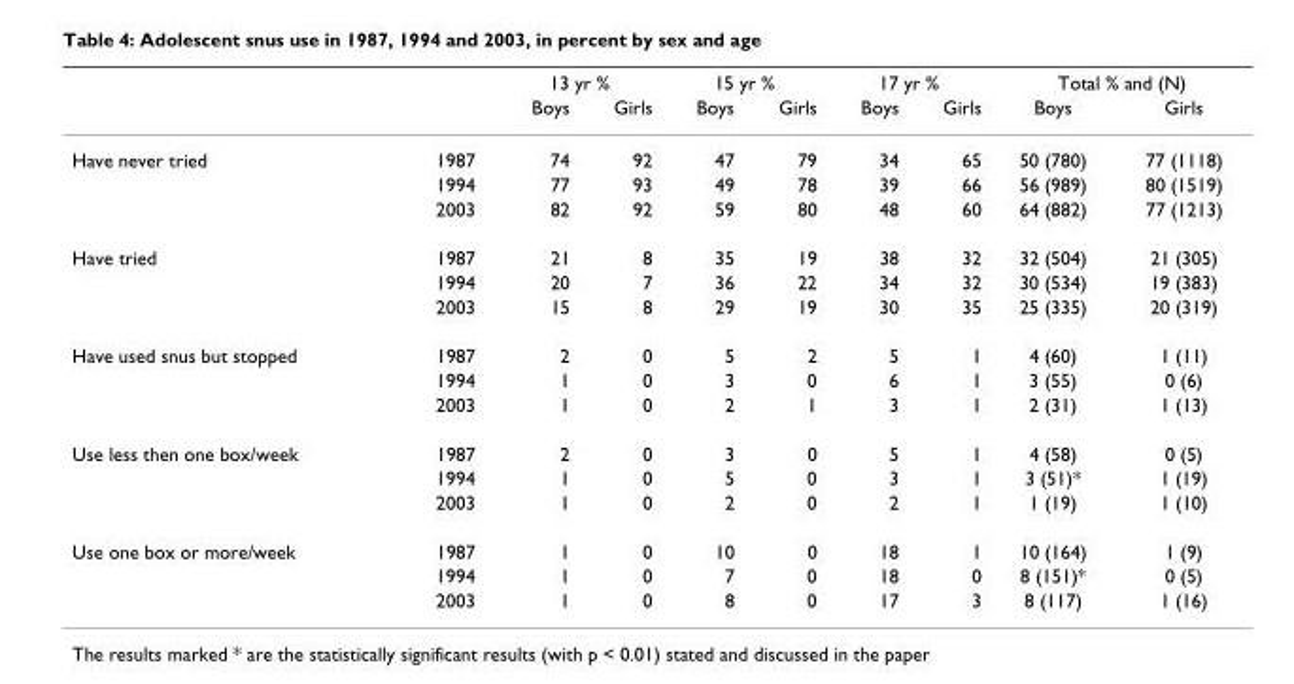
<table><thead><tr><td rowspan="2"></td><td rowspan="2"></td><td colspan="2">13 yr %</td><td colspan="2">15 yr %</td><td colspan="2">17 yr %</td><td colspan="2">Total % and (N)</td></tr><tr><td>Boys</td><td>Girls</td><td>Boys</td><td>Girls</td><td>Boys</td><td>Girls</td><td>Boys</td><td>Girls</td></tr></thead><tbody><tr><td rowspan="3">Have never tried</td><td>1987</td><td>74</td><td>92</td><td>47</td><td>79</td><td>34</td><td>65</td><td>50 (780)</td><td>77 (1118)</td></tr><tr><td>1994</td><td>77</td><td>93</td><td>49</td><td>78</td><td>39</td><td>66</td><td>56 (989)</td><td>80 (1519)</td></tr><tr><td>2003</td><td>82</td><td>92</td><td>59</td><td>80</td><td>48</td><td>60</td><td>64 (882)</td><td>77 (1213)</td></tr><tr><td rowspan="3">Have tried</td><td>1987</td><td>21</td><td>8</td><td>35</td><td>19</td><td>38</td><td>32</td><td>32 (504)</td><td>21 (305)</td></tr><tr><td>1994</td><td>20</td><td>7</td><td>36</td><td>22</td><td>34</td><td>32</td><td>30 (534)</td><td>19 (383)</td></tr><tr><td>2003</td><td>15</td><td>8</td><td>29</td><td>19</td><td>30</td><td>35</td><td>25 (335)</td><td>20 (319)</td></tr><tr><td rowspan="3">Have used snus but stopped</td><td>1987</td><td>2</td><td>0</td><td>5</td><td>2</td><td>5</td><td>1</td><td>4 (60)</td><td>1 (11)</td></tr><tr><td>1994</td><td>1</td><td>0</td><td>3</td><td>0</td><td>6</td><td>1</td><td>3 (55)</td><td>0 (6)</td></tr><tr><td>2003</td><td>1</td><td>0</td><td>2</td><td>1</td><td>3</td><td>1</td><td>2 (31)</td><td>1 (13)</td></tr><tr><td rowspan="3">Use less then one box/week</td><td>1987</td><td>2</td><td>0</td><td>3</td><td>0</td><td>5</td><td>1</td><td>4 (58)</td><td>0 (5)</td></tr><tr><td>1994</td><td>1</td><td>0</td><td>5</td><td>0</td><td>3</td><td>1</td><td>3 (51)*</td><td>1 (19)</td></tr><tr><td>2003</td><td>1</td><td>0</td><td>2</td><td>0</td><td>2</td><td>1</td><td>1 (19)</td><td>1 (10)</td></tr><tr><td rowspan="3">Use one box or more/week</td><td>1987</td><td>1</td><td>0</td><td>10</td><td>0</td><td>18</td><td>1</td><td>10 (164)</td><td>1 (9)</td></tr><tr><td>1994</td><td>1</td><td>0</td><td>7</td><td>0</td><td>18</td><td>0</td><td>8 (151)*</td><td>0 (5)</td></tr><tr><td>2003</td><td>1</td><td>0</td><td>8</td><td>0</td><td>17</td><td>3</td><td>8 (117)</td><td>1 (16)</td></tr></tbody></table>